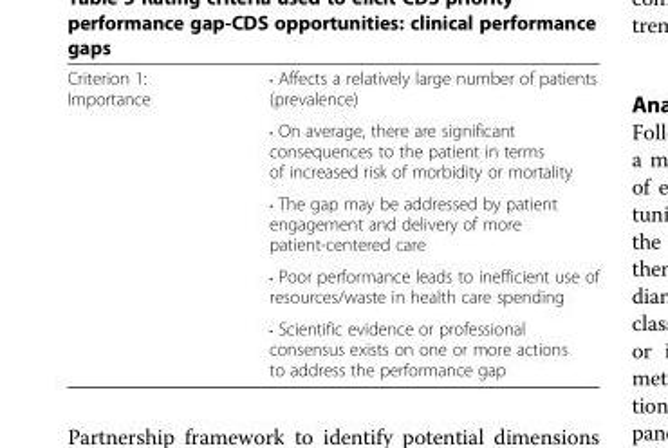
<table><tbody><tr><td rowspan="5">Criterion 1: Importance</td><td>• Affects a relatively large number of patients (prevalence)</td></tr><tr><td>• On average, there are significant consequences to the patient in terms of increased risk of morbidity or mortality</td></tr><tr><td>• The gap may be addressed by patient engagement and delivery of more patient-centered care</td></tr><tr><td>• Poor performance leads to inefficient use of resources/waste in health care spending</td></tr><tr><td>• Scientific evidence or professional consensus exists on one or more actions to address the performance gap</td></tr></tbody></table>